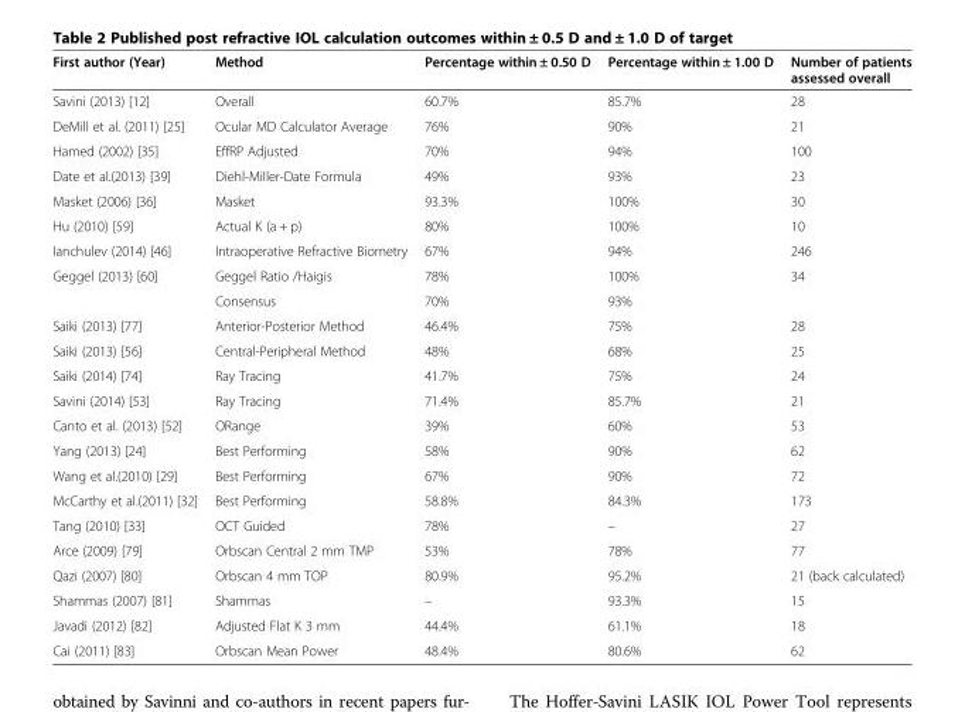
<table><thead><tr><td>First author (Year)</td><td>Method</td><td>Percentage within ± 0.50 D</td><td>Percentage within ± 1.00 D</td><td>Number of patients assessed overall</td></tr></thead><tbody><tr><td>Savini (2013) [12]</td><td>Overall</td><td>60.7%</td><td>85.7%</td><td>28</td></tr><tr><td>DeMill et al. (2011) [25]</td><td>Ocular MD Calculator Average</td><td>76%</td><td>90%</td><td>21</td></tr><tr><td>Hamed (2002) [35]</td><td>EffRP Adjusted</td><td>70%</td><td>94%</td><td>100</td></tr><tr><td>Date et al.(2013) [39]</td><td>Diehl-Miller-Date Formula</td><td>49%</td><td>93%</td><td>23</td></tr><tr><td>Masket (2006) [36]</td><td>Masket</td><td>93.3%</td><td>100%</td><td>30</td></tr><tr><td>Hu (2010) [59]</td><td>Actual K (a + p)</td><td>80%</td><td>100%</td><td>10</td></tr><tr><td>Ianchulev (2014) [46]</td><td>Intraoperative Refractive Biometry</td><td>67%</td><td>94%</td><td>246</td></tr><tr><td rowspan="2">Geggel (2013) [60]</td><td>Geggel Ratio /Haigis</td><td>78%</td><td>100%</td><td>34</td></tr><tr><td>Consensus</td><td>70%</td><td>93%</td><td></td></tr><tr><td>Saiki (2013) [77]</td><td>Anterior-Posterior Method</td><td>46.4%</td><td>75%</td><td>28</td></tr><tr><td>Saiki (2013) [56]</td><td>Central-Peripheral Method</td><td>48%</td><td>68%</td><td>25</td></tr><tr><td>Saiki (2014) [74]</td><td>Ray Tracing</td><td>41.7%</td><td>75%</td><td>24</td></tr><tr><td>Savini (2014) [53]</td><td>Ray Tracing</td><td>71.4%</td><td>85.7%</td><td>21</td></tr><tr><td>Canto et al. (2013) [52]</td><td>ORange</td><td>39%</td><td>60%</td><td>53</td></tr><tr><td>Yang (2013) [24]</td><td>Best Performing</td><td>58%</td><td>90%</td><td>62</td></tr><tr><td>Wang et al.(2010) [29]</td><td>Best Performing</td><td>67%</td><td>90%</td><td>72</td></tr><tr><td>McCarthy et al.(2011) [32]</td><td>Best Performing</td><td>58.8%</td><td>84.3%</td><td>173</td></tr><tr><td>Tang (2010) [33]</td><td>OCT Guided</td><td>78%</td><td>–</td><td>27</td></tr><tr><td>Arce (2009) [79]</td><td>Orbscan Central 2 mm TMP</td><td>53%</td><td>78%</td><td>77</td></tr><tr><td>Qazi (2007) [80]</td><td>Orbscan 4 mm TOP</td><td>80.9%</td><td>95.2%</td><td>21 (back calculated)</td></tr><tr><td>Shammas (2007) [81]</td><td>Shammas</td><td>–</td><td>93.3%</td><td>15</td></tr><tr><td>Javadi (2012) [82]</td><td>Adjusted Flat K 3 mm</td><td>44.4%</td><td>61.1%</td><td>18</td></tr><tr><td>Cai (2011) [83]</td><td>Orbscan Mean Power</td><td>48.4%</td><td>80.6%</td><td>62</td></tr></tbody></table>